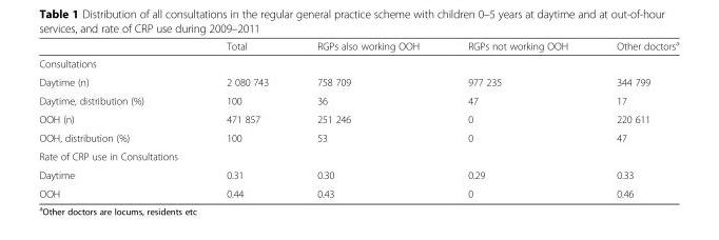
<table><thead><tr><td></td><td>Total</td><td>RGPs also working OOH</td><td>RGPs not working OOH</td><td>Other doctors<sup>a</sup></td></tr></thead><tbody><tr><td colspan="5">Consultations</td></tr><tr><td>Daytime (n)</td><td>2 080 743</td><td>758 709</td><td>977 235</td><td>344 799</td></tr><tr><td>Daytime, distribution (%)</td><td>100</td><td>36</td><td>47</td><td>17</td></tr><tr><td>OOH (n)</td><td>471 857</td><td>251 246</td><td>0</td><td>220 611</td></tr><tr><td>OOH, distribution (%)</td><td>100</td><td>53</td><td>0</td><td>47</td></tr><tr><td colspan="5">Rate of CRP use in Consultations</td></tr><tr><td>Daytime</td><td>0.31</td><td>0.30</td><td>0.29</td><td>0.33</td></tr><tr><td>OOH</td><td>0.44</td><td>0.43</td><td>0</td><td>0.46</td></tr></tbody></table>